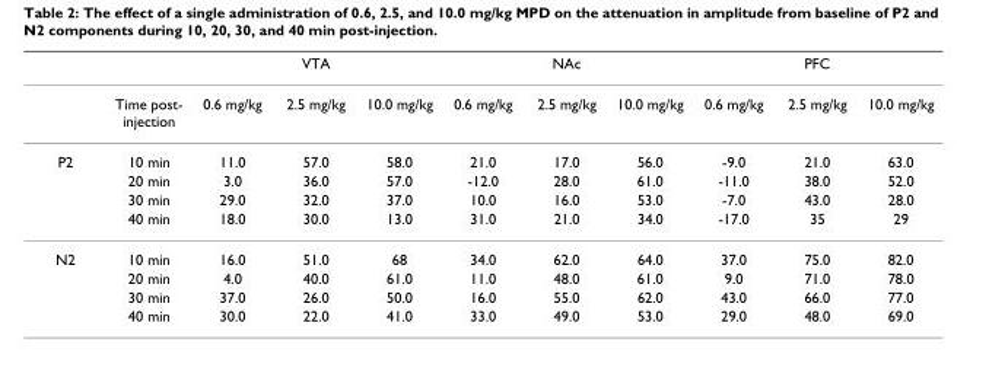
<table><thead><tr><td rowspan="2"></td><td rowspan="2">Time post- injection</td><td colspan="3">VTA</td><td colspan="3">NAc</td><td colspan="3">PFC</td></tr><tr><td>0.6 mg/kg</td><td>2.5 mg/kg</td><td>10.0 mg/kg</td><td>0.6 mg/kg</td><td>2.5 mg/kg</td><td>10.0 mg/kg</td><td>0.6 mg/kg</td><td>2.5 mg/kg</td><td>10.0 mg/kg</td></tr></thead><tbody><tr><td rowspan="4">P2</td><td>10 min</td><td>11.0</td><td>57.0</td><td>58.0</td><td>21.0</td><td>17.0</td><td>56.0</td><td>-9.0</td><td>21.0</td><td>63.0</td></tr><tr><td>20 min</td><td>3.0</td><td>36.0</td><td>57.0</td><td>-12.0</td><td>28.0</td><td>61.0</td><td>-11.0</td><td>38.0</td><td>52.0</td></tr><tr><td>30 min</td><td>29.0</td><td>32.0</td><td>37.0</td><td>10.0</td><td>16.0</td><td>53.0</td><td>-7.0</td><td>43.0</td><td>28.0</td></tr><tr><td>40 min</td><td>18.0</td><td>30.0</td><td>13.0</td><td>31.0</td><td>21.0</td><td>34.0</td><td>-17.0</td><td>35</td><td>29</td></tr><tr><td rowspan="4">N2</td><td>10 min</td><td>16.0</td><td>51.0</td><td>68</td><td>34.0</td><td>62.0</td><td>64.0</td><td>37.0</td><td>75.0</td><td>82.0</td></tr><tr><td>20 min</td><td>4.0</td><td>40.0</td><td>61.0</td><td>11.0</td><td>48.0</td><td>61.0</td><td>9.0</td><td>71.0</td><td>78.0</td></tr><tr><td>30 min</td><td>37.0</td><td>26.0</td><td>50.0</td><td>16.0</td><td>55.0</td><td>62.0</td><td>43.0</td><td>66.0</td><td>77.0</td></tr><tr><td>40 min</td><td>30.0</td><td>22.0</td><td>41.0</td><td>33.0</td><td>49.0</td><td>53.0</td><td>29.0</td><td>48.0</td><td>69.0</td></tr></tbody></table>